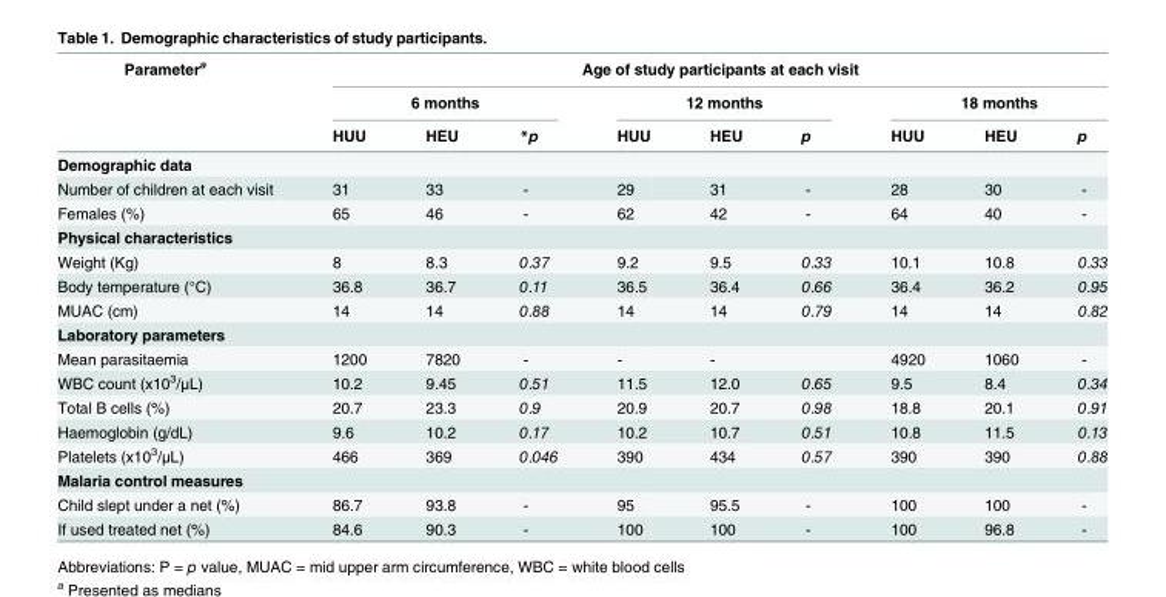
<table><thead><tr><td rowspan="3">Parameter<sup>a</sup></td><td colspan="9">Age of study participants at each visit</td></tr><tr><td colspan="3">6 months</td><td colspan="3">12 months</td><td colspan="3">18 months</td></tr><tr><td>HUU</td><td>HEU</td><td>*p</td><td>HUU</td><td>HEU</td><td>p</td><td>HUU</td><td>HEU</td><td>p</td></tr></thead><tbody><tr><td colspan="10">Demographic data</td></tr><tr><td>Number of children at each visit</td><td>31</td><td>33</td><td>-</td><td>29</td><td>31</td><td>-</td><td>28</td><td>30</td><td>-</td></tr><tr><td>Females (%)</td><td>65</td><td>46</td><td>-</td><td>62</td><td>42</td><td>-</td><td>64</td><td>40</td><td>-</td></tr><tr><td colspan="10">Physical characteristics</td></tr><tr><td>Weight (Kg)</td><td>8</td><td>8.3</td><td>0.37</td><td>9.2</td><td>9.5</td><td>0.33</td><td>10.1</td><td>10.8</td><td>0.33</td></tr><tr><td>Body temperature (°C)</td><td>36.8</td><td>36.7</td><td>0.11</td><td>36.5</td><td>36.4</td><td>0.66</td><td>36.4</td><td>36.2</td><td>0.95</td></tr><tr><td>MUAC (cm)</td><td>14</td><td>14</td><td>0.88</td><td>14</td><td>14</td><td>0.79</td><td>14</td><td>14</td><td>0.82</td></tr><tr><td colspan="10">Laboratory parameters</td></tr><tr><td>Mean parasitaemia</td><td>1200</td><td>7820</td><td>-</td><td>-</td><td>-</td><td></td><td>4920</td><td>1060</td><td>-</td></tr><tr><td>WBC count (x10<sup>3</sup>/μL)</td><td>10.2</td><td>9.45</td><td>0.51</td><td>11.5</td><td>12.0</td><td>0.65</td><td>9.5</td><td>8.4</td><td>0.34</td></tr><tr><td>Total B cells (%)</td><td>20.7</td><td>23.3</td><td>0.9</td><td>20.9</td><td>20.7</td><td>0.98</td><td>18.8</td><td>20.1</td><td>0.91</td></tr><tr><td>Haemoglobin (g/dL)</td><td>9.6</td><td>10.2</td><td>0.17</td><td>10.2</td><td>10.7</td><td>0.51</td><td>10.8</td><td>11.5</td><td>0.13</td></tr><tr><td>Platelets (x10<sup>3</sup>/μL)</td><td>466</td><td>369</td><td>0.046</td><td>390</td><td>434</td><td>0.57</td><td>390</td><td>390</td><td>0.88</td></tr><tr><td colspan="10">Malaria control measures</td></tr><tr><td>Child slept under a net (%)</td><td>86.7</td><td>93.8</td><td>-</td><td>95</td><td>95.5</td><td>-</td><td>100</td><td>100</td><td>-</td></tr><tr><td>If used treated net (%)</td><td>84.6</td><td>90.3</td><td>-</td><td>100</td><td>100</td><td>-</td><td>100</td><td>96.8</td><td>-</td></tr></tbody></table>